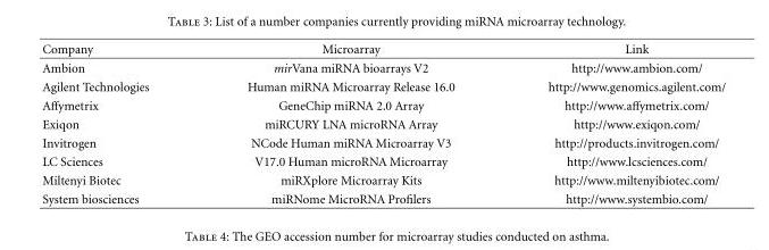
<table><thead><tr><td>Company</td><td>Microarray</td><td>Link</td></tr></thead><tbody><tr><td>Ambion</td><td>mirVana miRNA bioarrays V2</td><td>http://www.ambion.com/</td></tr><tr><td>Agilent Technologies</td><td>Human miRNA Microarray Release 16.0</td><td>http://www.genomics.agilent.com/</td></tr><tr><td>Affymetrix</td><td>GeneChip miRNA 2.0 Array</td><td>http://www.affymetrix.com/</td></tr><tr><td>Exiqon</td><td>miRCURY LNA microRNA Array</td><td>http://www.exiqon.com/</td></tr><tr><td>Invitrogen</td><td>NCode Human miRNA Microarray V3</td><td>http://products.invitrogen.com/</td></tr><tr><td>LC Sciences</td><td>V17.0 Human microRNA Microarray</td><td>http://www.lcsciences.com/</td></tr><tr><td>Miltenyi Biotec</td><td>miRXplore Microarray Kits</td><td>http://www.miltenyibiotec.com/</td></tr><tr><td>System biosciences</td><td>miRNome MicroRNA Profilers</td><td>http://www.systembio.com/</td></tr></tbody></table>